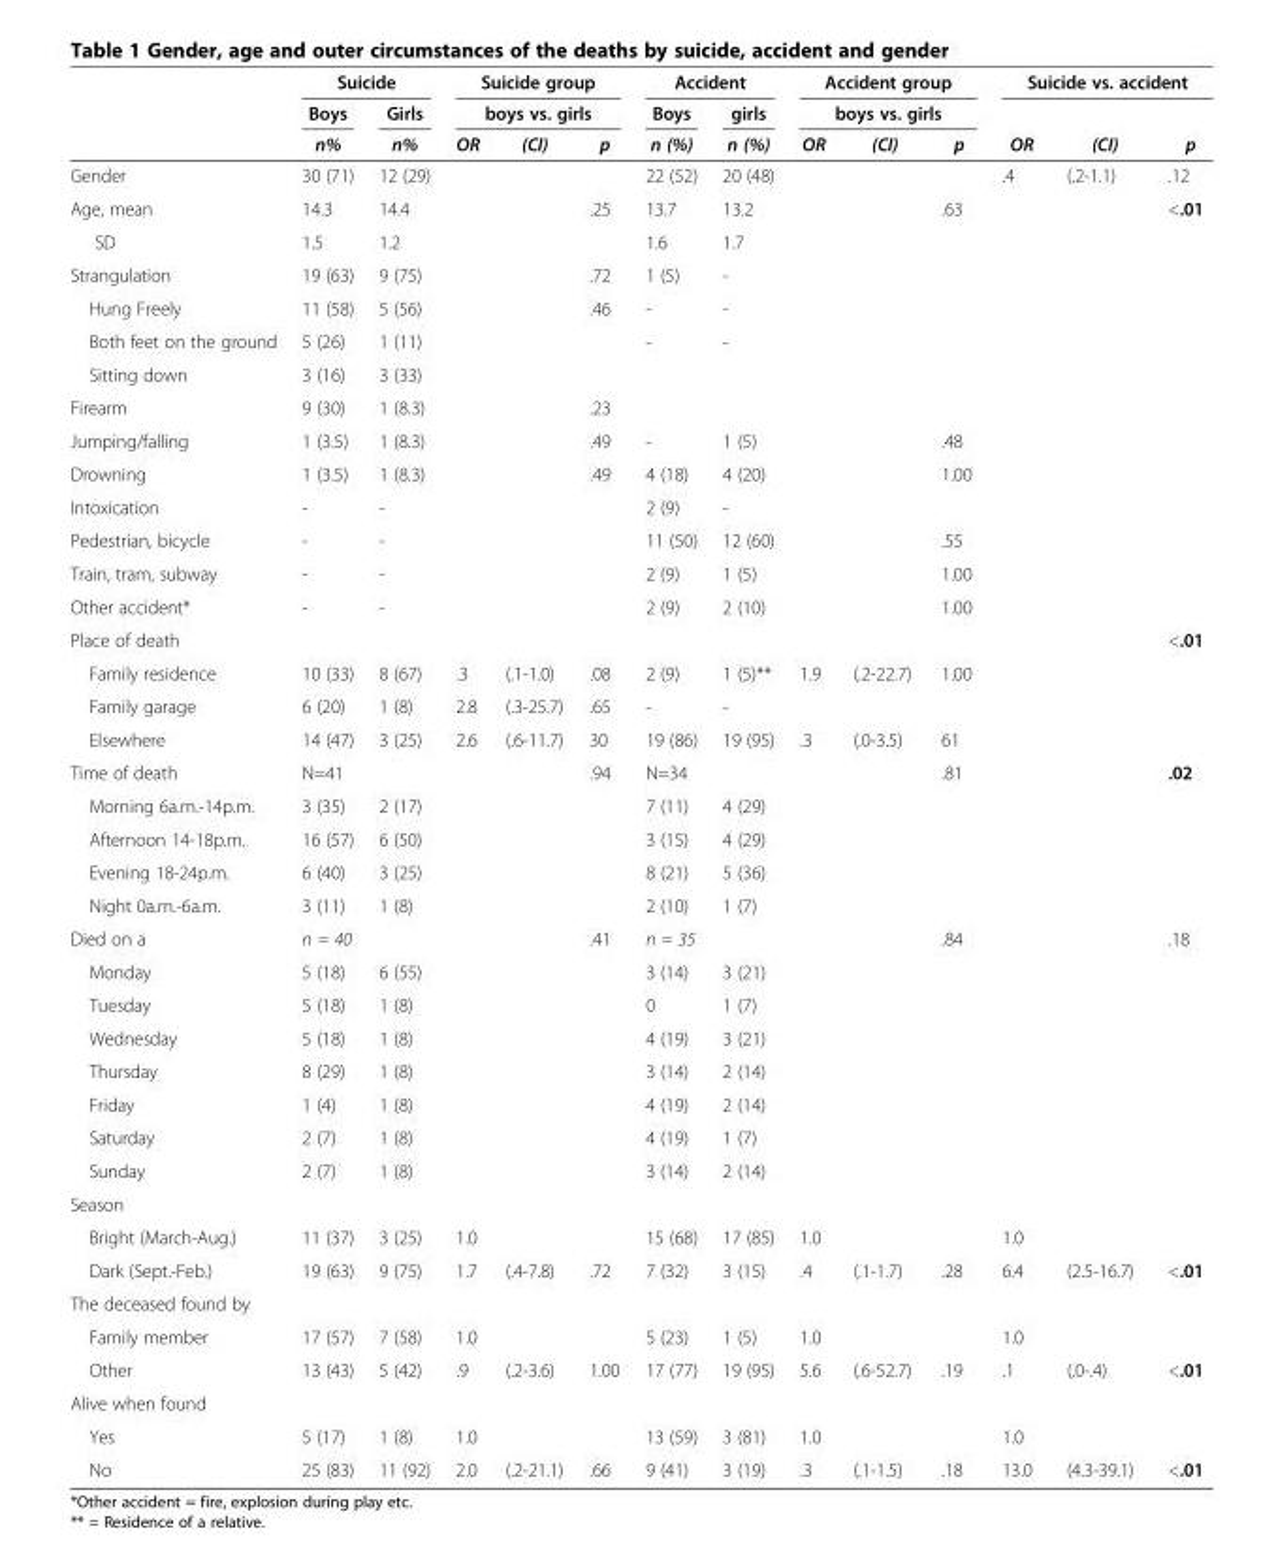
<table><thead><tr><td rowspan="3"></td><td colspan="2">Suicide</td><td rowspan="2" colspan="3">Suicide group boys vs. girls</td><td colspan="2">Accident</td><td rowspan="2" colspan="3">Accident group boys vs. girls</td><td colspan="3">Suicide vs. accident</td></tr><tr><td rowspan="2">Boys n%</td><td rowspan="2">Girls n%</td><td rowspan="2">Boys n (%)</td><td rowspan="2">girls n (%)</td><td rowspan="2">OR</td><td rowspan="2">(CI)</td><td rowspan="2">p</td></tr><tr><td>OR</td><td>(CI)</td><td>p</td><td>OR</td><td>(CI)</td><td>p</td></tr></thead><tbody><tr><td>Gender</td><td>30 (71)</td><td>12 (29)</td><td></td><td></td><td></td><td>22 (52)</td><td>20 (48)</td><td></td><td></td><td></td><td>.4</td><td>(.2-1.1)</td><td>.12</td></tr><tr><td>Age, mean</td><td>14.3</td><td>14.4</td><td></td><td></td><td>.25</td><td>13.7</td><td>13.2</td><td></td><td></td><td>.63</td><td></td><td></td><td>&lt;.01</td></tr><tr><td>SD</td><td>1.5</td><td>1.2</td><td></td><td></td><td></td><td>1.6</td><td>1.7</td><td></td><td></td><td></td><td></td><td></td><td></td></tr><tr><td>Strangulation</td><td>19 (63)</td><td>9 (75)</td><td></td><td></td><td>.72</td><td>1 (5)</td><td>-</td><td></td><td></td><td></td><td></td><td></td><td></td></tr><tr><td>Hung Freely</td><td>11 (58)</td><td>5 (56)</td><td></td><td></td><td>.46</td><td>-</td><td>-</td><td></td><td></td><td></td><td></td><td></td><td></td></tr><tr><td>Both feet on the ground</td><td>5 (26)</td><td>1 (11)</td><td></td><td></td><td></td><td>-</td><td>-</td><td></td><td></td><td></td><td></td><td></td><td></td></tr><tr><td>Sitting down</td><td>3 (16)</td><td>3 (33)</td><td></td><td></td><td></td><td></td><td></td><td></td><td></td><td></td><td></td><td></td><td></td></tr><tr><td>Firearm</td><td>9 (30)</td><td>1 (8.3)</td><td></td><td></td><td>.23</td><td></td><td></td><td></td><td></td><td></td><td></td><td></td><td></td></tr><tr><td>Jumping/falling</td><td>1 (3.5)</td><td>1 (8.3)</td><td></td><td></td><td>.49</td><td>-</td><td>1 (5)</td><td></td><td></td><td>.48</td><td></td><td></td><td></td></tr><tr><td>Drowning</td><td>1 (3.5)</td><td>1 (8.3)</td><td></td><td></td><td>.49</td><td>4 (18)</td><td>4 (20)</td><td></td><td></td><td>1.00</td><td></td><td></td><td></td></tr><tr><td>Intoxication</td><td>-</td><td>-</td><td></td><td></td><td></td><td>2 (9)</td><td>-</td><td></td><td></td><td></td><td></td><td></td><td></td></tr><tr><td>Pedestrian, bicycle</td><td>-</td><td>-</td><td></td><td></td><td></td><td>11 (50)</td><td>12 (60)</td><td></td><td></td><td>.55</td><td></td><td></td><td></td></tr><tr><td>Train, tram, subway</td><td>-</td><td>-</td><td></td><td></td><td></td><td>2 (9)</td><td>1 (5)</td><td></td><td></td><td>1.00</td><td></td><td></td><td></td></tr><tr><td>Other accident*</td><td>-</td><td>-</td><td></td><td></td><td></td><td>2 (9)</td><td>2 (10)</td><td></td><td></td><td>1.00</td><td></td><td></td><td></td></tr><tr><td>Place of death</td><td></td><td></td><td></td><td></td><td></td><td></td><td></td><td></td><td></td><td></td><td></td><td></td><td>&lt;.01</td></tr><tr><td>Family residence</td><td>10 (33)</td><td>8 (67)</td><td>.3</td><td>(.1-1.0)</td><td>.08</td><td>2 (9)</td><td>1 (5)**</td><td>1.9</td><td>(.2-22.7)</td><td>1.00</td><td></td><td></td><td></td></tr><tr><td>Family garage</td><td>6 (20)</td><td>1 (8)</td><td>2.8</td><td>(.3-25.7)</td><td>.65</td><td>-</td><td>-</td><td></td><td></td><td></td><td></td><td></td><td></td></tr><tr><td>Elsewhere</td><td>14 (47)</td><td>3 (25)</td><td>2.6</td><td>(.6-11.7)</td><td>30</td><td>19 (86)</td><td>19 (95)</td><td>.3</td><td>(.0-3.5)</td><td>61</td><td></td><td></td><td></td></tr><tr><td>Time of death</td><td>N=41</td><td></td><td></td><td></td><td>.94</td><td>N=34</td><td></td><td></td><td></td><td>.81</td><td></td><td></td><td>.02</td></tr><tr><td>Morning 6a.m.-14p.m.</td><td>3 (35)</td><td>2 (17)</td><td></td><td></td><td></td><td>7 (11)</td><td>4 (29)</td><td></td><td></td><td></td><td></td><td></td><td></td></tr><tr><td>Afternoon 14-18p.m.</td><td>16 (57)</td><td>6 (50)</td><td></td><td></td><td></td><td>3 (15)</td><td>4 (29)</td><td></td><td></td><td></td><td></td><td></td><td></td></tr><tr><td>Evening 18-24p.m.</td><td>6 (40)</td><td>3 (25)</td><td></td><td></td><td></td><td>8 (21)</td><td>5 (36)</td><td></td><td></td><td></td><td></td><td></td><td></td></tr><tr><td>Night 0a.m.-6a.m.</td><td>3 (11)</td><td>1 (8)</td><td></td><td></td><td></td><td>2 (10)</td><td>1 (7)</td><td></td><td></td><td></td><td></td><td></td><td></td></tr><tr><td>Died on a</td><td>n = 40</td><td></td><td></td><td></td><td>.41</td><td>n = 35</td><td></td><td></td><td></td><td>.84</td><td></td><td></td><td>.18</td></tr><tr><td>Monday</td><td>5 (18)</td><td>6 (55)</td><td></td><td></td><td></td><td>3 (14)</td><td>3 (21)</td><td></td><td></td><td></td><td></td><td></td><td></td></tr><tr><td>Tuesday</td><td>5 (18)</td><td>1 (8)</td><td></td><td></td><td></td><td>0</td><td>1 (7)</td><td></td><td></td><td></td><td></td><td></td><td></td></tr><tr><td>Wednesday</td><td>5 (18)</td><td>1 (8)</td><td></td><td></td><td></td><td>4 (19)</td><td>3 (21)</td><td></td><td></td><td></td><td></td><td></td><td></td></tr><tr><td>Thursday</td><td>8 (29)</td><td>1 (8)</td><td></td><td></td><td></td><td>3 (14)</td><td>2 (14)</td><td></td><td></td><td></td><td></td><td></td><td></td></tr><tr><td>Friday</td><td>1 (4)</td><td>1 (8)</td><td></td><td></td><td></td><td>4 (19)</td><td>2 (14)</td><td></td><td></td><td></td><td></td><td></td><td></td></tr><tr><td>Saturday</td><td>2 (7)</td><td>1 (8)</td><td></td><td></td><td></td><td>4 (19)</td><td>1 (7)</td><td></td><td></td><td></td><td></td><td></td><td></td></tr><tr><td>Sunday</td><td>2 (7)</td><td>1 (8)</td><td></td><td></td><td></td><td>3 (14)</td><td>2 (14)</td><td></td><td></td><td></td><td></td><td></td><td></td></tr><tr><td colspan="14">Season</td></tr><tr><td>Bright (March-Aug.)</td><td>11 (37)</td><td>3 (25)</td><td>1.0</td><td></td><td></td><td>15 (68)</td><td>17 (85)</td><td>1.0</td><td></td><td></td><td>1.0</td><td></td><td></td></tr><tr><td>Dark (Sept.-Feb.)</td><td>19 (63)</td><td>9 (75)</td><td>1.7</td><td>(.4-7.8)</td><td>.72</td><td>7 (32)</td><td>3 (15)</td><td>.4</td><td>(.1-1.7)</td><td>.28</td><td>6.4</td><td>(2.5-16.7)</td><td>&lt;.01</td></tr><tr><td colspan="14">The deceased found by</td></tr><tr><td>Family member</td><td>17 (57)</td><td>7 (58)</td><td>1.0</td><td></td><td></td><td>5 (23)</td><td>1 (5)</td><td>1.0</td><td></td><td></td><td>1.0</td><td></td><td></td></tr><tr><td>Other</td><td>13 (43)</td><td>5 (42)</td><td>.9</td><td>(.2-3.6)</td><td>1.00</td><td>17 (77)</td><td>19 (95)</td><td>5.6</td><td>(.6-52.7)</td><td>.19</td><td>.1</td><td>(.0-.4)</td><td>&lt;.01</td></tr><tr><td colspan="14">Alive when found</td></tr><tr><td>Yes</td><td>5 (17)</td><td>1 (8)</td><td>1.0</td><td></td><td></td><td>13 (59)</td><td>3 (81)</td><td>1.0</td><td></td><td></td><td>1.0</td><td></td><td></td></tr><tr><td>No</td><td>25 (83)</td><td>11 (92)</td><td>2.0</td><td>(.2-21.1)</td><td>.66</td><td>9 (41)</td><td>3 (19)</td><td>.3</td><td>(.1-1.5)</td><td>.18</td><td>13.0</td><td>(4.3-39.1)</td><td>&lt;.01</td></tr></tbody></table>